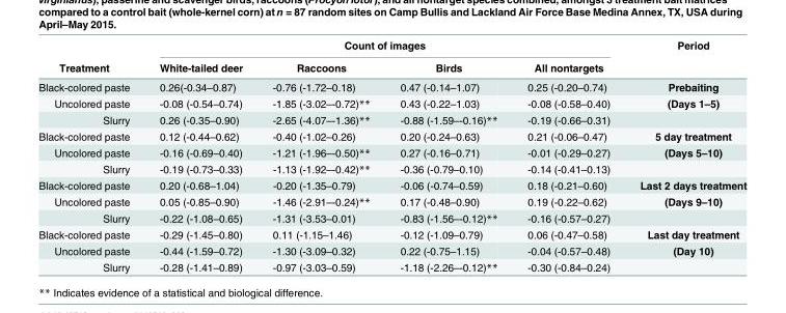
<table><thead><tr><td rowspan="2">Treatment</td><td colspan="4">Count of images</td><td rowspan="2">Period</td></tr><tr><td>White-tailed deer</td><td>Raccoons</td><td>Birds</td><td>All nontargets</td></tr></thead><tbody><tr><td>Black-colored paste</td><td>0.26(-0.34–0.87)</td><td>-0.76 (-1.72–0.18)</td><td>0.47 (-0.14–1.07)</td><td>0.25 (-0.20–0.74)</td><td>Prebaiting</td></tr><tr><td>Uncolored paste</td><td>-0.08 (-0.54–0.74)</td><td>-1.85 (-3.02–-0.72)**</td><td>0.43 (-0.22–1.03)</td><td>-0.08 (-0.58–0.40)</td><td>(Days 1–5)</td></tr><tr><td>Slurry</td><td>0.26 (-0.35–0.90)</td><td>-2.65 (-4.07–-1.36)**</td><td>-0.88 (-1.59–-0.16)**</td><td>-0.19 (-0.66–0.31)</td><td></td></tr><tr><td>Black-colored paste</td><td>0.12 (-0.44–0.62)</td><td>-0.40 (-1.02–0.26)</td><td>0.20 (-0.24–0.63)</td><td>0.21 (-0.06–0.47)</td><td>5 day treatment</td></tr><tr><td>Uncolored paste</td><td>-0.16 (-0.69–0.40)</td><td>-1.21 (-1.96–-0.50)**</td><td>0.27 (-0.16–0.71)</td><td>-0.01 (-0.29–0.27)</td><td>(Days 5–10)</td></tr><tr><td>Slurry</td><td>-0.19 (-0.73–0.33)</td><td>-1.13 (-1.92–-0.42)**</td><td>-0.36 (-0.79–0.10)</td><td>-0.14 (-0.41–0.13)</td><td></td></tr><tr><td>Black-colored paste</td><td>0.20 (-0.68–1.04)</td><td>-0.20 (-1.35–0.79)</td><td>-0.06 (-0.74–0.59)</td><td>0.18 (-0.21–0.60)</td><td>Last 2 days treatment</td></tr><tr><td>Uncolored paste</td><td>0.05 (-0.85–0.90)</td><td>-1.46 (-2.91–-0.24)**</td><td>0.17 (-0.48–0.90)</td><td>0.19 (-0.22–0.62)</td><td>(Days 9–10)</td></tr><tr><td>Slurry</td><td>-0.22 (-1.08–0.65)</td><td>-1.31 (-3.53–0.01)</td><td>-0.83 (-1.56–-0.12)**</td><td>-0.16 (-0.57–0.27)</td><td></td></tr><tr><td>Black-colored paste</td><td>-0.29 (-1.45–0.80)</td><td>0.11 (-1.15–1.46)</td><td>-0.12 (-1.09–0.79)</td><td>0.06 (-0.47–0.58)</td><td>Last day treatment</td></tr><tr><td>Uncolored paste</td><td>-0.44 (-1.59–0.72)</td><td>-1.30 (-3.09–0.32)</td><td>0.22 (-0.75–1.15)</td><td>-0.04 (-0.57–0.48)</td><td>(Day 10)</td></tr><tr><td>Slurry</td><td>-0.28 (-1.41–0.89)</td><td>-0.97 (-3.03–0.59)</td><td>-1.18 (-2.26–-0.12)**</td><td>-0.30 (-0.84–0.24)</td><td></td></tr></tbody></table>